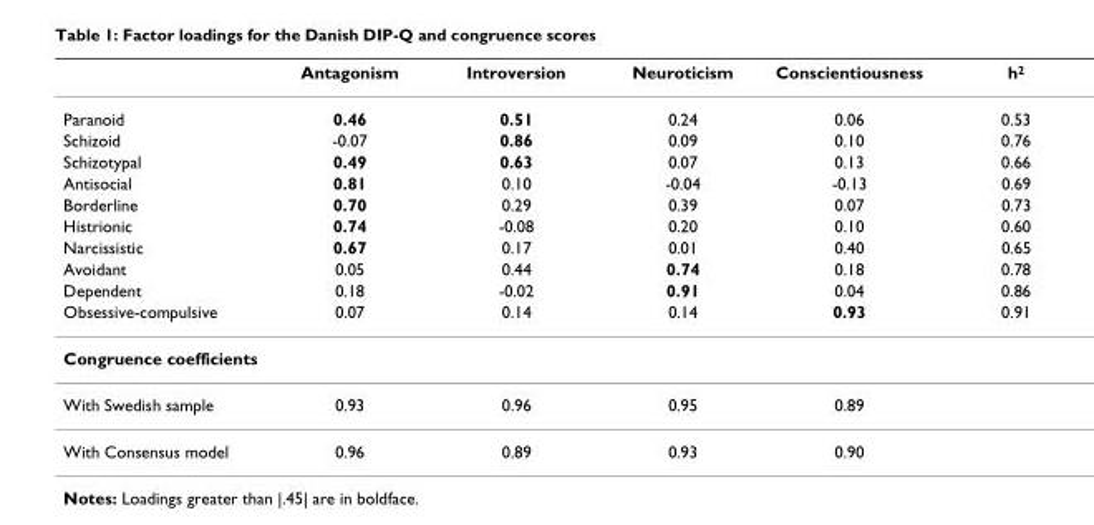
<table><thead><tr><td></td><td>Antagonism</td><td>Introversion</td><td>Neuroticism</td><td>Conscientiousness</td><td>h<sup>2</sup></td></tr></thead><tbody><tr><td>Paranoid</td><td>0.46</td><td>0.51</td><td>0.24</td><td>0.06</td><td>0.53</td></tr><tr><td>Schizoid</td><td>-0.07</td><td>0.86</td><td>0.09</td><td>0.10</td><td>0.76</td></tr><tr><td>Schizotypal</td><td>0.49</td><td>0.63</td><td>0.07</td><td>0.13</td><td>0.66</td></tr><tr><td>Antisocial</td><td>0.81</td><td>0.10</td><td>-0.04</td><td>-0.13</td><td>0.69</td></tr><tr><td>Borderline</td><td>0.70</td><td>0.29</td><td>0.39</td><td>0.07</td><td>0.73</td></tr><tr><td>Histrionic</td><td>0.74</td><td>-0.08</td><td>0.20</td><td>0.10</td><td>0.60</td></tr><tr><td>Narcissistic</td><td>0.67</td><td>0.17</td><td>0.01</td><td>0.40</td><td>0.65</td></tr><tr><td>Avoidant</td><td>0.05</td><td>0.44</td><td>0.74</td><td>0.18</td><td>0.78</td></tr><tr><td>Dependent</td><td>0.18</td><td>-0.02</td><td>0.91</td><td>0.04</td><td>0.86</td></tr><tr><td>Obsessive-compulsive</td><td>0.07</td><td>0.14</td><td>0.14</td><td>0.93</td><td>0.91</td></tr><tr><td colspan="6">Congruence coefficients</td></tr><tr><td>With Swedish sample</td><td>0.93</td><td>0.96</td><td>0.95</td><td>0.89</td><td></td></tr><tr><td>With Consensus model</td><td>0.96</td><td>0.89</td><td>0.93</td><td>0.90</td><td></td></tr></tbody></table>